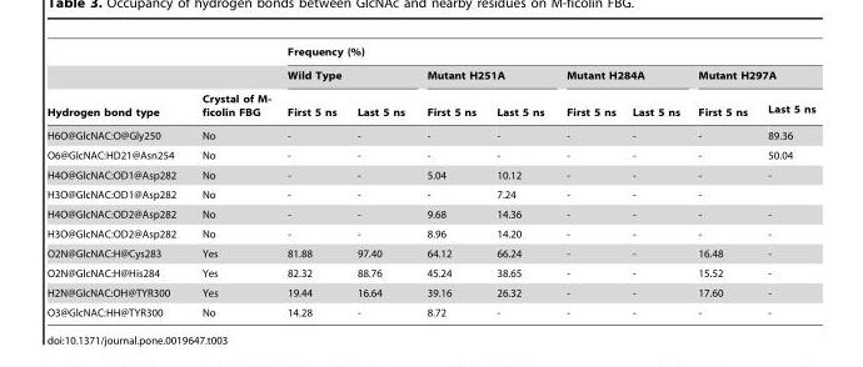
<table><thead><tr><td rowspan="3">Hydrogen bond type</td><td rowspan="3">Crystal of M- ficolin FBG</td><td colspan="8">Frequency (%)</td></tr><tr><td colspan="2">Wild Type</td><td colspan="2">Mutant H251A</td><td colspan="2">Mutant H284A</td><td colspan="2">Mutant H297A</td></tr><tr><td>First 5 ns</td><td>Last 5 ns</td><td>First 5 ns</td><td>Last 5 ns</td><td>First 5 ns</td><td>Last 5 ns</td><td>First 5 ns</td><td>Last 5 ns</td></tr></thead><tbody><tr><td>H6O@GlcNAC:O@Gly250</td><td>No</td><td>-</td><td>-</td><td>-</td><td>-</td><td>-</td><td>-</td><td>-</td><td>89.36</td></tr><tr><td>O6@GlcNAC:HD21@Asn254</td><td>No</td><td>-</td><td>-</td><td>-</td><td>-</td><td>-</td><td>-</td><td>-</td><td>50.04</td></tr><tr><td>H4O@GlcNAC:OD1@Asp282</td><td>No</td><td>-</td><td>-</td><td>5.04</td><td>10.12</td><td>-</td><td>-</td><td>-</td><td>-</td></tr><tr><td>H3O@GlcNAC:OD1@Asp282</td><td>No</td><td>-</td><td>-</td><td>-</td><td>7.24</td><td>-</td><td>-</td><td>-</td><td></td></tr><tr><td>H4O@GlcNAC:OD2@Asp282</td><td>No</td><td>-</td><td>-</td><td>9.68</td><td>14.36</td><td>-</td><td>-</td><td>-</td><td>-</td></tr><tr><td>H3O@GlcNAC:OD2@Asp282</td><td>No</td><td>-</td><td>-</td><td>8.96</td><td>14.20</td><td>-</td><td>-</td><td>-</td><td>-</td></tr><tr><td>O2N@GlcNAC:H@Cys283</td><td>Yes</td><td>81.88</td><td>97.40</td><td>64.12</td><td>66.24</td><td>-</td><td>-</td><td>16.48</td><td>-</td></tr><tr><td>O2N@GlcNAC:H@His284</td><td>Yes</td><td>82.32</td><td>88.76</td><td>45.24</td><td>38.65</td><td>-</td><td>-</td><td>15.52</td><td>-</td></tr><tr><td>H2N@GlcNAC:OH@TYR300</td><td>Yes</td><td>19.44</td><td>16.64</td><td>39.16</td><td>26.32</td><td>-</td><td>-</td><td>17.60</td><td>-</td></tr><tr><td>O3@GlcNAC:HH@TYR300</td><td>No</td><td>14.28</td><td>-</td><td>8.72</td><td>-</td><td>-</td><td>-</td><td>-</td><td>-</td></tr></tbody></table>